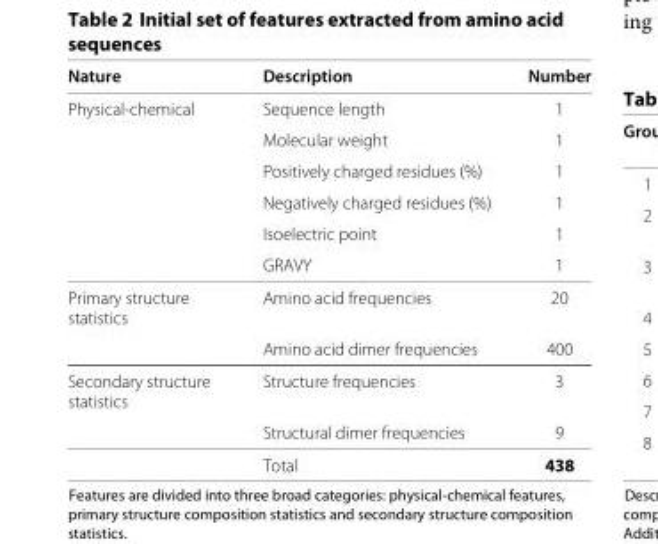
<table><thead><tr><td>Nature</td><td>Description</td><td>Number</td></tr></thead><tbody><tr><td rowspan="6">Physical-chemical</td><td>Sequence length</td><td>1</td></tr><tr><td>Molecular weight</td><td>1</td></tr><tr><td>Positively charged residues (%)</td><td>1</td></tr><tr><td>Negatively charged residues (%)</td><td>1</td></tr><tr><td>Isoelectric point</td><td>1</td></tr><tr><td>GRAVY</td><td>1</td></tr><tr><td rowspan="2">Primary structure statistics</td><td>Amino acid frequencies</td><td>20</td></tr><tr><td>Amino acid dimer frequencies</td><td>400</td></tr><tr><td rowspan="3">Secondary structure statistics</td><td>Structure frequencies</td><td>3</td></tr><tr><td>Structural dimer frequencies</td><td>9</td></tr><tr><td>Total</td><td>438</td></tr></tbody></table>